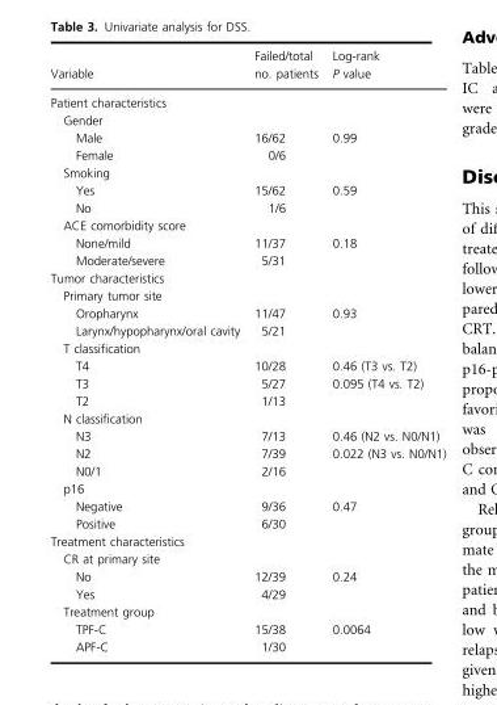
<table><thead><tr><td>Variable</td><td>Failed/total no. patients</td><td>Log-rank P value</td></tr></thead><tbody><tr><td colspan="3">Patient characteristics</td></tr><tr><td colspan="3">Gender</td></tr><tr><td>Male</td><td>16/62</td><td rowspan="2">0.99</td></tr><tr><td>Female</td><td>0/6</td></tr><tr><td colspan="3">Smoking</td></tr><tr><td>Yes</td><td>15/62</td><td rowspan="2">0.59</td></tr><tr><td>No</td><td>1/6</td></tr><tr><td colspan="3">ACE comorbidity score</td></tr><tr><td>None/mild</td><td>11/37</td><td rowspan="2">0.18</td></tr><tr><td>Moderate/severe</td><td>5/31</td></tr><tr><td colspan="3">Tumor characteristics</td></tr><tr><td colspan="3">Primary tumor site</td></tr><tr><td>Oropharynx</td><td>11/47</td><td rowspan="2">0.93</td></tr><tr><td>Larynx/hypopharynx/oral cavity</td><td>5/21</td></tr><tr><td colspan="3">T classification</td></tr><tr><td>T4</td><td>10/28</td><td rowspan="3">0.46 (T3 vs. T2) 0.095 (T4 vs. T2)</td></tr><tr><td>T3</td><td>5/27</td></tr><tr><td>T2</td><td>1/13</td></tr><tr><td colspan="3">N classification</td></tr><tr><td>N3</td><td>7/13</td><td rowspan="3">0.46 (N2 vs. N0/N1) 0.022 (N3 vs. N0/N1)</td></tr><tr><td>N2</td><td>7/39</td></tr><tr><td>N0/1</td><td>2/16</td></tr><tr><td colspan="3">p16</td></tr><tr><td>Negative</td><td>9/36</td><td rowspan="2">0.47</td></tr><tr><td>Positive</td><td>6/30</td></tr><tr><td colspan="3">Treatment characteristics</td></tr><tr><td colspan="3">CR at primary site</td></tr><tr><td>No</td><td>12/39</td><td rowspan="2">0.24</td></tr><tr><td>Yes</td><td>4/29</td></tr><tr><td colspan="3">Treatment group</td></tr><tr><td>TPF-C</td><td>15/38</td><td rowspan="2">0.0064</td></tr><tr><td>APF-C</td><td>1/30</td></tr></tbody></table>